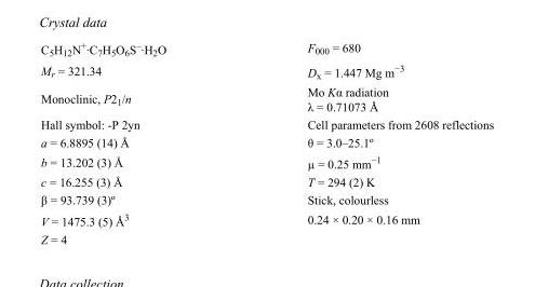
<table><tbody><tr><td>C<sub>5</sub>H<sub>12</sub>N<sup>+</sup>·C<sub>7</sub>H<sub>5</sub>O<sub>6</sub>S<sup>–</sup>·H<sub>2</sub>O</td><td>F<sub>000</sub> = 680</td></tr><tr><td>M<sub>r</sub> = 321.34</td><td>D<sub>x</sub> = 1.447 Mg m<sup>−3</sup></td></tr><tr><td>Monoclinic, P2<sub>1</sub>/n</td><td>Mo Kα radiation λ = 0.71073 Å</td></tr><tr><td>Hall symbol: -P 2yn</td><td>Cell parameters from 2608 reflections</td></tr><tr><td>a = 6.8895 (14) Å</td><td>θ = 3.0–25.1º</td></tr><tr><td>b = 13.202 (3) Å</td><td>µ = 0.25 mm<sup>−1</sup></td></tr><tr><td>c = 16.255 (3) Å</td><td>T = 294 (2) K</td></tr><tr><td>β = 93.739 (3)º</td><td>Stick, colourless</td></tr><tr><td>V = 1475.3 (5) Å<sup>3</sup></td><td>0.24 × 0.20 × 0.16 mm</td></tr><tr><td>Z = 4</td><td></td></tr></tbody></table>